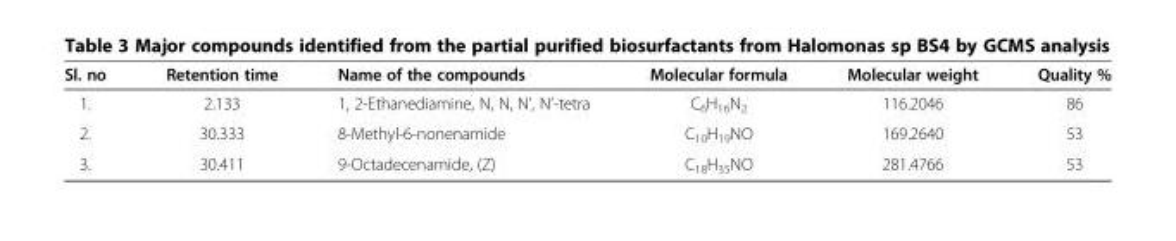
<table><thead><tr><td>Sl. no</td><td>Retention time</td><td>Name of the compounds</td><td>Molecular formula</td><td>Molecular weight</td><td>Quality %</td></tr></thead><tbody><tr><td>1.</td><td>2.133</td><td>1, 2-Ethanediamine, N, N, N’, N’-tetra</td><td>C<sub>6</sub>H<sub>16</sub>N<sub>2</sub></td><td>116.2046</td><td>86</td></tr><tr><td>2.</td><td>30.333</td><td>8-Methyl-6-nonenamide</td><td>C<sub>10</sub>H<sub>19</sub>NO</td><td>169.2640</td><td>53</td></tr><tr><td>3.</td><td>30.411</td><td>9-Octadecenamide, (Z)</td><td>C<sub>18</sub>H<sub>35</sub>NO</td><td>281.4766</td><td>53</td></tr></tbody></table>